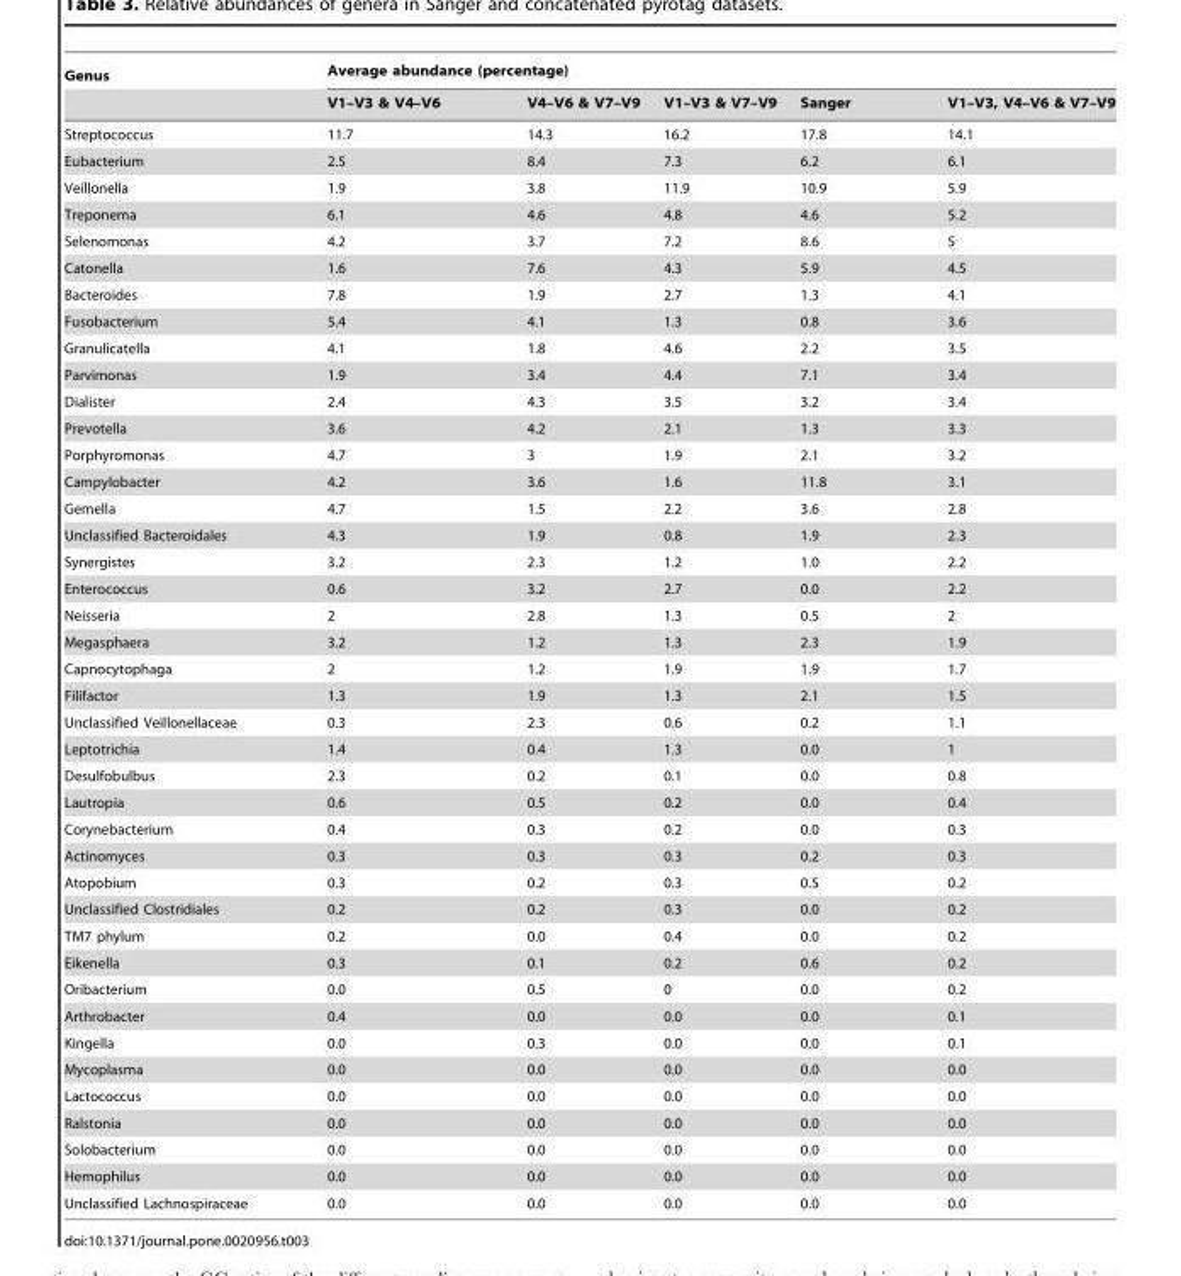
<table><thead><tr><td rowspan="2">Genus</td><td colspan="5">Average abundance (percentage)</td></tr><tr><td>V1–V3 &amp; V4–V6</td><td>V4–V6 &amp; V7–V9</td><td>V1–V3 &amp; V7–V9</td><td>Sanger</td><td>V1–V3, V4–V6 &amp; V7–V9</td></tr></thead><tbody><tr><td>Streptococcus</td><td>11.7</td><td>14.3</td><td>16.2</td><td>17.8</td><td>14.1</td></tr><tr><td>Eubacterium</td><td>2.5</td><td>8.4</td><td>7.3</td><td>6.2</td><td>6.1</td></tr><tr><td>Veillonella</td><td>1.9</td><td>3.8</td><td>11.9</td><td>10.9</td><td>5.9</td></tr><tr><td>Treponema</td><td>6.1</td><td>4.6</td><td>4.8</td><td>4.6</td><td>5.2</td></tr><tr><td>Selenomonas</td><td>4.2</td><td>3.7</td><td>7.2</td><td>8.6</td><td>5</td></tr><tr><td>Catonella</td><td>1.6</td><td>7.6</td><td>4.3</td><td>5.9</td><td>4.5</td></tr><tr><td>Bacteroides</td><td>7.8</td><td>1.9</td><td>2.7</td><td>1.3</td><td>4.1</td></tr><tr><td>Fusobacterium</td><td>5.4</td><td>4.1</td><td>1.3</td><td>0.8</td><td>3.6</td></tr><tr><td>Granulicatella</td><td>4.1</td><td>1.8</td><td>4.6</td><td>2.2</td><td>3.5</td></tr><tr><td>Parvimonas</td><td>1.9</td><td>3.4</td><td>4.4</td><td>7.1</td><td>3.4</td></tr><tr><td>Dialister</td><td>2.4</td><td>4.3</td><td>3.5</td><td>3.2</td><td>3.4</td></tr><tr><td>Prevotella</td><td>3.6</td><td>4.2</td><td>2.1</td><td>1.3</td><td>3.3</td></tr><tr><td>Porphyromonas</td><td>4.7</td><td>3</td><td>1.9</td><td>2.1</td><td>3.2</td></tr><tr><td>Campylobacter</td><td>4.2</td><td>3.6</td><td>1.6</td><td>11.8</td><td>3.1</td></tr><tr><td>Gemella</td><td>4.7</td><td>1.5</td><td>2.2</td><td>3.6</td><td>2.8</td></tr><tr><td>Unclassified Bacteroidales</td><td>4.3</td><td>1.9</td><td>0.8</td><td>1.9</td><td>2.3</td></tr><tr><td>Synergistes</td><td>3.2</td><td>2.3</td><td>1.2</td><td>1.0</td><td>2.2</td></tr><tr><td>Enterococcus</td><td>0.6</td><td>3.2</td><td>2.7</td><td>0.0</td><td>2.2</td></tr><tr><td>Neisseria</td><td>2</td><td>2.8</td><td>1.3</td><td>0.5</td><td>2</td></tr><tr><td>Megasphaera</td><td>3.2</td><td>1.2</td><td>1.3</td><td>2.3</td><td>1.9</td></tr><tr><td>Capnocytophaga</td><td>2</td><td>1.2</td><td>1.9</td><td>1.9</td><td>1.7</td></tr><tr><td>Filifactor</td><td>1.3</td><td>1.9</td><td>1.3</td><td>2.1</td><td>1.5</td></tr><tr><td>Unclassified Veillonellaceae</td><td>0.3</td><td>2.3</td><td>0.6</td><td>0.2</td><td>1.1</td></tr><tr><td>Leptotrichia</td><td>1.4</td><td>0.4</td><td>1.3</td><td>0.0</td><td>1</td></tr><tr><td>Desulfobulbus</td><td>2.3</td><td>0.2</td><td>0.1</td><td>0.0</td><td>0.8</td></tr><tr><td>Lautropia</td><td>0.6</td><td>0.5</td><td>0.2</td><td>0.0</td><td>0.4</td></tr><tr><td>Corynebacterium</td><td>0.4</td><td>0.3</td><td>0.2</td><td>0.0</td><td>0.3</td></tr><tr><td>Actinomyces</td><td>0.3</td><td>0.3</td><td>0.3</td><td>0.2</td><td>0.3</td></tr><tr><td>Atopobium</td><td>0.3</td><td>0.2</td><td>0.3</td><td>0.5</td><td>0.2</td></tr><tr><td>Unclassified Clostridiales</td><td>0.2</td><td>0.2</td><td>0.3</td><td>0.0</td><td>0.2</td></tr><tr><td>TM7 phylum</td><td>0.2</td><td>0.0</td><td>0.4</td><td>0.0</td><td>0.2</td></tr><tr><td>Eikenella</td><td>0.3</td><td>0.1</td><td>0.2</td><td>0.6</td><td>0.2</td></tr><tr><td>Oribacterium</td><td>0.0</td><td>0.5</td><td>0</td><td>0.0</td><td>0.2</td></tr><tr><td>Arthrobacter</td><td>0.4</td><td>0.0</td><td>0.0</td><td>0.0</td><td>0.1</td></tr><tr><td>Kingella</td><td>0.0</td><td>0.3</td><td>0.0</td><td>0.0</td><td>0.1</td></tr><tr><td>Mycoplasma</td><td>0.0</td><td>0.0</td><td>0.0</td><td>0.0</td><td>0.0</td></tr><tr><td>Lactococcus</td><td>0.0</td><td>0.0</td><td>0.0</td><td>0.0</td><td>0.0</td></tr><tr><td>Ralstonia</td><td>0.0</td><td>0.0</td><td>0.0</td><td>0.0</td><td>0.0</td></tr><tr><td>Solobacterium</td><td>0.0</td><td>0.0</td><td>0.0</td><td>0.0</td><td>0.0</td></tr><tr><td>Hemophilus</td><td>0.0</td><td>0.0</td><td>0.0</td><td>0.0</td><td>0.0</td></tr><tr><td>Unclassified Lachnospiraceae</td><td>0.0</td><td>0.0</td><td>0.0</td><td>0.0</td><td>0.0</td></tr></tbody></table>